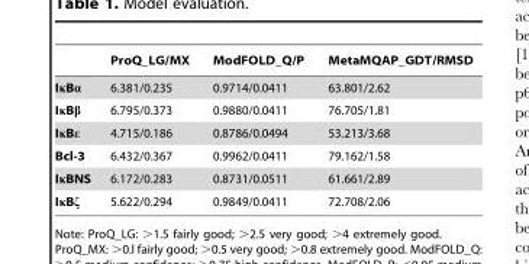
<table><thead><tr><td></td><td>ProQ_LG/MX</td><td>ModFOLD_Q/P</td><td>MetaMQAP_GDT/RMSD</td></tr></thead><tbody><tr><td>IκBα</td><td>6.381/0.235</td><td>0.9714/0.0411</td><td>63.801/2.62</td></tr><tr><td>IκBβ</td><td>6.795/0.373</td><td>0.9880/0.0411</td><td>76.705/1.81</td></tr><tr><td>IκBε</td><td>4.715/0.186</td><td>0.8786/0.0494</td><td>53.213/3.68</td></tr><tr><td>Bcl-3</td><td>6.432/0.367</td><td>0.9962/0.0411</td><td>79.162/1.58</td></tr><tr><td>IκBNS</td><td>6.172/0.283</td><td>0.8731/0.0511</td><td>61.661/2.89</td></tr><tr><td>IκBζ</td><td>5.622/0.294</td><td>0.9849/0.0411</td><td>72.708/2.06</td></tr></tbody></table>